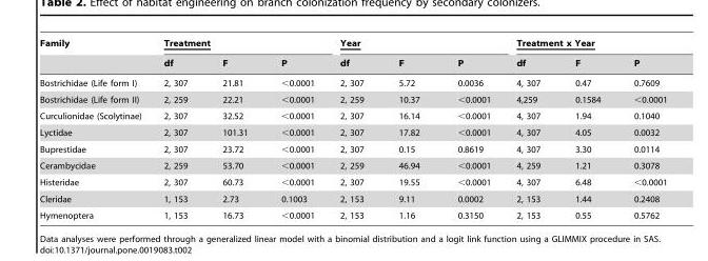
<table><thead><tr><td rowspan="2">Family</td><td colspan="3">Treatment</td><td colspan="3">Year</td><td colspan="3">Treatment x Year</td></tr><tr><td>df</td><td>F</td><td>P</td><td>df</td><td>F</td><td>P</td><td>df</td><td>F</td><td>P</td></tr></thead><tbody><tr><td>Bostrichidae (Life form I)</td><td>2, 307</td><td>21.81</td><td>&lt;0.0001</td><td>2, 307</td><td>5.72</td><td>0.0036</td><td>4, 307</td><td>0.47</td><td>0.7609</td></tr><tr><td>Bostrichidae (Life form II)</td><td>2, 259</td><td>22.21</td><td>&lt;0.0001</td><td>2, 259</td><td>10.37</td><td>&lt;0.0001</td><td>4,259</td><td>0.1584</td><td>&lt;0.0001</td></tr><tr><td>Curculionidae (Scolytinae)</td><td>2, 307</td><td>32.52</td><td>&lt;0.0001</td><td>2, 307</td><td>16.14</td><td>&lt;0.0001</td><td>4, 307</td><td>1.94</td><td>0.1040</td></tr><tr><td>Lyctidae</td><td>2, 307</td><td>101.31</td><td>&lt;0.0001</td><td>2, 307</td><td>17.82</td><td>&lt;0.0001</td><td>4, 307</td><td>4.05</td><td>0.0032</td></tr><tr><td>Buprestidae</td><td>2, 307</td><td>23.72</td><td>&lt;0.0001</td><td>2, 307</td><td>0.15</td><td>0.8619</td><td>4, 307</td><td>3.30</td><td>0.0114</td></tr><tr><td>Cerambycidae</td><td>2, 259</td><td>53.70</td><td>&lt;0.0001</td><td>2, 259</td><td>46.94</td><td>&lt;0.0001</td><td>4, 259</td><td>1.21</td><td>0.3078</td></tr><tr><td>Histeridae</td><td>2, 307</td><td>60.73</td><td>&lt;0.0001</td><td>2, 307</td><td>19.55</td><td>&lt;0.0001</td><td>4, 307</td><td>6.48</td><td>&lt;0.0001</td></tr><tr><td>Cleridae</td><td>1, 153</td><td>2.73</td><td>0.1003</td><td>2, 153</td><td>9.11</td><td>0.0002</td><td>2, 153</td><td>1.44</td><td>0.2408</td></tr><tr><td>Hymenoptera</td><td>1, 153</td><td>16.73</td><td>&lt;0.0001</td><td>2, 153</td><td>1.16</td><td>0.3150</td><td>2, 153</td><td>0.55</td><td>0.5762</td></tr></tbody></table>